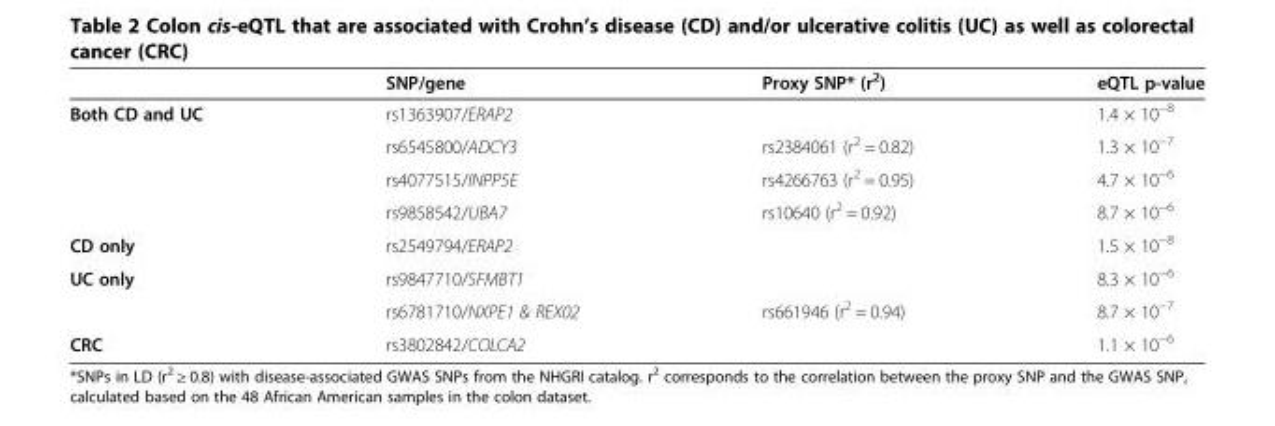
<table><thead><tr><td></td><td>SNP/gene</td><td>Proxy SNP* (r<sup>2</sup>)</td><td>eQTL p-value</td></tr></thead><tbody><tr><td rowspan="4">Both CD and UC</td><td>rs1363907/ERAP2</td><td></td><td>1.4 × 10<sup>−8</sup></td></tr><tr><td>rs6545800/ADCY3</td><td>rs2384061 (r<sup>2</sup> = 0.82)</td><td>1.3 × 10<sup>−7</sup></td></tr><tr><td>rs4077515/INPP5E</td><td>rs4266763 (r<sup>2</sup> = 0.95)</td><td>4.7 × 10<sup>−6</sup></td></tr><tr><td>rs9858542/UBA7</td><td>rs10640 (r<sup>2</sup> = 0.92)</td><td>8.7 × 10<sup>−6</sup></td></tr><tr><td>CD only</td><td>rs2549794/ERAP2</td><td></td><td>1.5 × 10<sup>−8</sup></td></tr><tr><td rowspan="2">UC only</td><td>rs9847710/SFMBT1</td><td></td><td>8.3 × 10<sup>−6</sup></td></tr><tr><td>rs6781710/NXPE1 &amp; REX02</td><td>rs661946 (r<sup>2</sup> = 0.94)</td><td>8.7 × 10<sup>−7</sup></td></tr><tr><td>CRC</td><td>rs3802842/COLCA2</td><td></td><td>1.1 × 10<sup>−6</sup></td></tr></tbody></table>